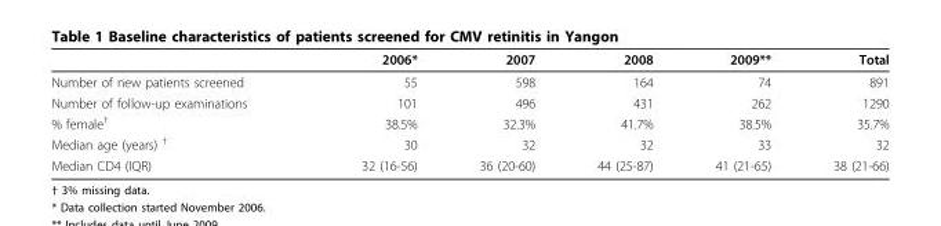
<table><thead><tr><td></td><td>2006*</td><td>2007</td><td>2008</td><td>2009**</td><td>Total</td></tr></thead><tbody><tr><td>Number of new patients screened</td><td>55</td><td>598</td><td>164</td><td>74</td><td>891</td></tr><tr><td>Number of follow-up examinations</td><td>101</td><td>496</td><td>431</td><td>262</td><td>1290</td></tr><tr><td>% female<sup>†</sup></td><td>38.5%</td><td>32.3%</td><td>41.7%</td><td>38.5%</td><td>35.7%</td></tr><tr><td>Median age (years) <sup>†</sup></td><td>30</td><td>32</td><td>32</td><td>33</td><td>32</td></tr><tr><td>Median CD4 (IQR)</td><td>32 (16-56)</td><td>36 (20-60)</td><td>44 (25-87)</td><td>41 (21-65)</td><td>38 (21-66)</td></tr></tbody></table>